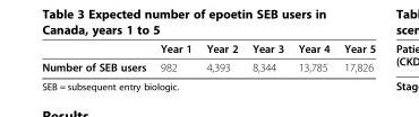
<table><thead><tr><td></td><td>Year 1</td><td>Year 2</td><td>Year 3</td><td>Year 4</td><td>Year 5</td></tr></thead><tbody><tr><td>Number of SEB users</td><td>982</td><td>4,393</td><td>8,344</td><td>13,785</td><td>17,826</td></tr></tbody></table>